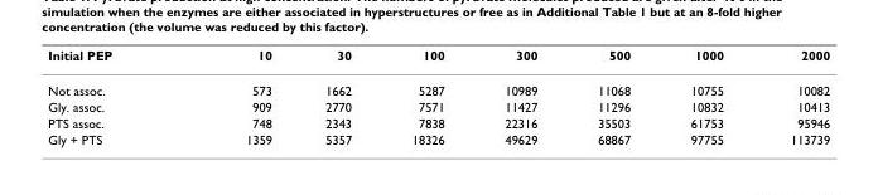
<table><thead><tr><td>Initial PEP</td><td>10</td><td>30</td><td>100</td><td>300</td><td>500</td><td>1000</td><td>2000</td></tr></thead><tbody><tr><td>Not assoc.</td><td>573</td><td>1662</td><td>5287</td><td>10989</td><td>11068</td><td>10755</td><td>10082</td></tr><tr><td>Gly. assoc.</td><td>909</td><td>2770</td><td>7571</td><td>11427</td><td>11296</td><td>10832</td><td>10413</td></tr><tr><td>PTS assoc.</td><td>748</td><td>2343</td><td>7838</td><td>22316</td><td>35503</td><td>61753</td><td>95946</td></tr><tr><td>Gly + PTS</td><td>1359</td><td>5357</td><td>18326</td><td>49629</td><td>68867</td><td>97755</td><td>113739</td></tr></tbody></table>